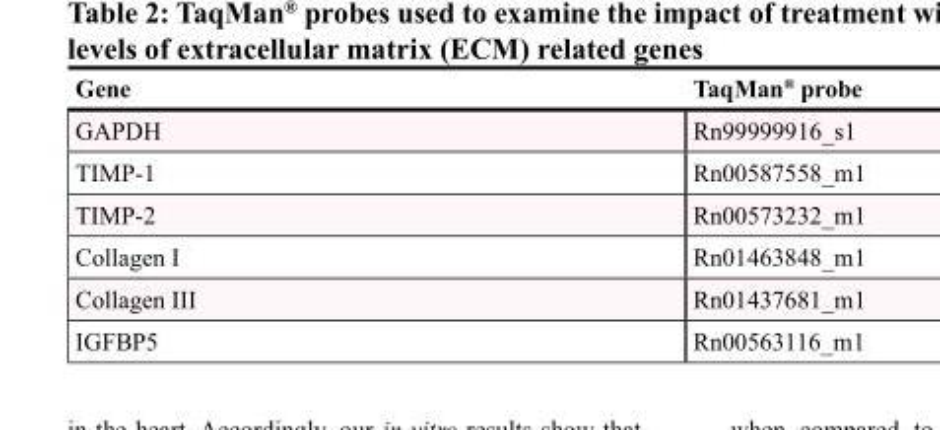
<table><thead><tr><td>Gene</td><td>TaqMan<sup>®</sup> probe</td></tr></thead><tbody><tr><td>GAPDH</td><td>Rn99999916_s1</td></tr><tr><td>TIMP-1</td><td>Rn00587558_m1</td></tr><tr><td>TIMP-2</td><td>Rn00573232_m1</td></tr><tr><td>Collagen I</td><td>Rn01463848_m1</td></tr><tr><td>Collagen III</td><td>Rn01437681_m1</td></tr><tr><td>IGFBP5</td><td>Rn00563116_m1</td></tr></tbody></table>